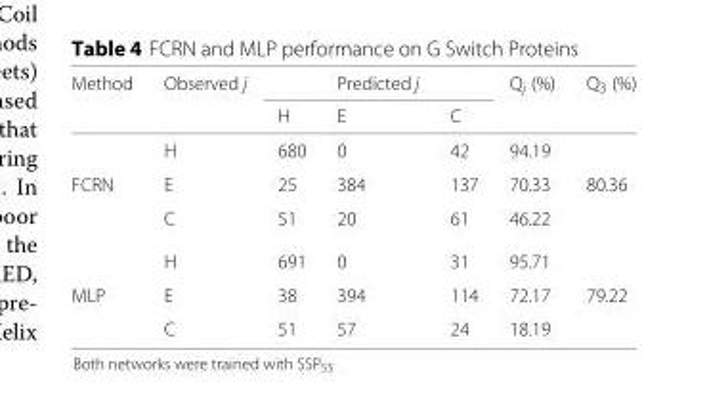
<table><thead><tr><td rowspan="2">Method</td><td rowspan="2">Observed j</td><td rowspan="2">H</td><td rowspan="2">Predicted j E</td><td rowspan="2">C</td><td rowspan="2">Q<sub>j</sub> (%)</td><td rowspan="2">Q<sub>3</sub> (%)</td></tr><tr></tr></thead><tbody><tr><td></td><td>H</td><td>680</td><td>0</td><td>42</td><td>94.19</td><td></td></tr><tr><td rowspan="3">FCRN</td><td>E</td><td>25</td><td>384</td><td>137</td><td>70.33</td><td>80.36</td></tr><tr><td>C</td><td>51</td><td>20</td><td>61</td><td>46.22</td><td></td></tr><tr><td>H</td><td>691</td><td>0</td><td>31</td><td>95.71</td><td></td></tr><tr><td rowspan="2">MLP</td><td>E</td><td>38</td><td>394</td><td>114</td><td>72.17</td><td>79.22</td></tr><tr><td>C</td><td>51</td><td>57</td><td>24</td><td>18.19</td><td></td></tr></tbody></table>